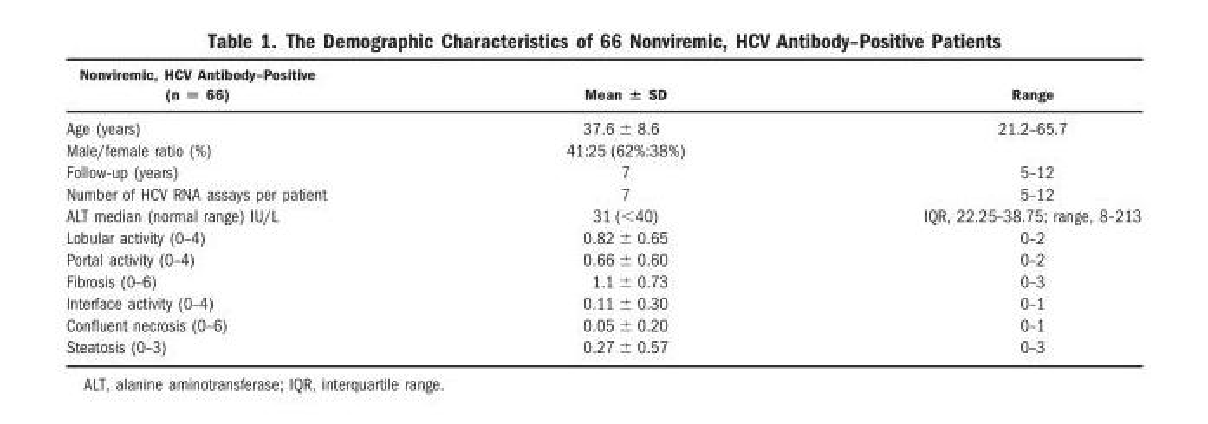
<table><thead><tr><td>Nonviremic, HCV Antibody–Positive (n = 66)</td><td>Mean ± SD</td><td>Range</td></tr></thead><tbody><tr><td>Age (years)</td><td>37.6 ± 8.6</td><td>21.2–65.7</td></tr><tr><td>Male/female ratio (%)</td><td>41:25 (62%:38%)</td><td></td></tr><tr><td>Follow-up (years)</td><td>7</td><td>5–12</td></tr><tr><td>Number of HCV RNA assays per patient</td><td>7</td><td>5–12</td></tr><tr><td>ALT median (normal range) IU/L</td><td>31 (&lt;40)</td><td>IQR, 22.25–38.75; range, 8–213</td></tr><tr><td>Lobular activity (0–4)</td><td>0.82 ± 0.65</td><td>0–2</td></tr><tr><td>Portal activity (0–4)</td><td>0.66 ± 0.60</td><td>0–2</td></tr><tr><td>Fibrosis (0–6)</td><td>1.1 ± 0.73</td><td>0–3</td></tr><tr><td>Interface activity (0–4)</td><td>0.11 ± 0.30</td><td>0–1</td></tr><tr><td>Confluent necrosis (0–6)</td><td>0.05 ± 0.20</td><td>0–1</td></tr><tr><td>Steatosis (0–3)</td><td>0.27 ± 0.57</td><td>0–3</td></tr></tbody></table>